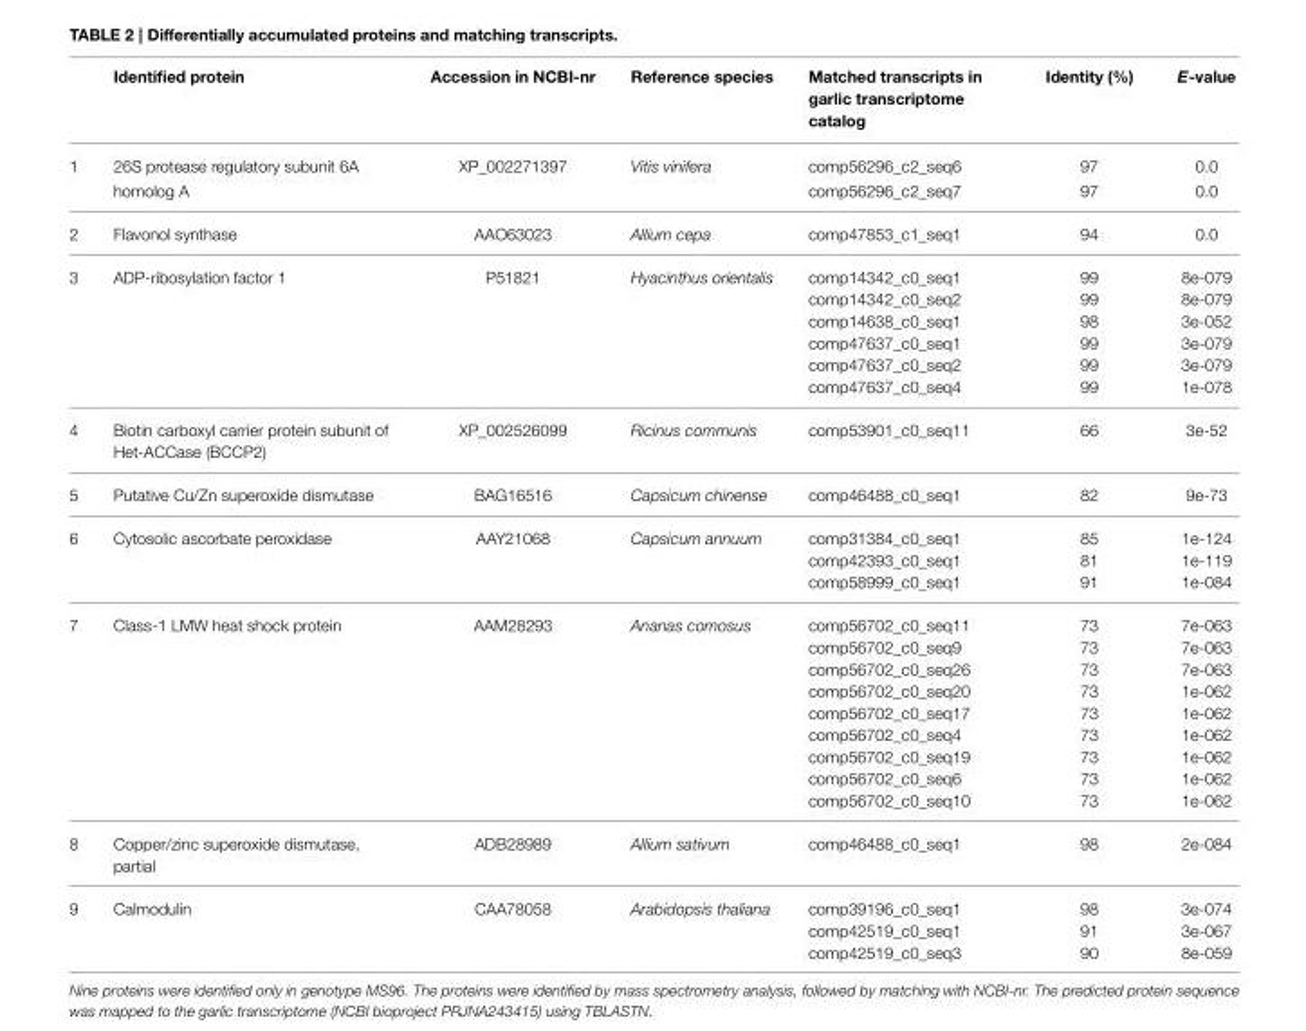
<table><thead><tr><td></td><td>Identified protein</td><td>Accession in NCBI-nr</td><td>Reference species</td><td>Matched transcripts in garlic transcriptome catalog</td><td>Identity (%)</td><td>E-value</td></tr></thead><tbody><tr><td rowspan="2">1</td><td>26S protease regulatory subunit 6A</td><td>XP_002271397</td><td>Vitis vinifera</td><td>comp56296_c2_seq6</td><td>97</td><td>0.0</td></tr><tr><td>homolog A</td><td></td><td></td><td>comp56296_c2_seq7</td><td>97</td><td>0.0</td></tr><tr><td>2</td><td>Flavonol synthase</td><td>AAO63023</td><td>Allium cepa</td><td>comp47853_c1_seq1</td><td>94</td><td>0.0</td></tr><tr><td rowspan="6">3</td><td>ADP-ribosylation factor 1</td><td>P51821</td><td>Hyacinthus orientalis</td><td>comp14342_c0_seq1</td><td>99</td><td>8e-079</td></tr><tr><td></td><td></td><td></td><td>comp14342_c0_seq2</td><td>99</td><td>8e-079</td></tr><tr><td></td><td></td><td></td><td>comp14638_c0_seq1</td><td>98</td><td>3e-052</td></tr><tr><td></td><td></td><td></td><td>comp47637_c0_seq1</td><td>99</td><td>3e-079</td></tr><tr><td></td><td></td><td></td><td>comp47637_c0_seq2</td><td>99</td><td>3e-079</td></tr><tr><td></td><td></td><td></td><td>comp47637_c0_seq4</td><td>99</td><td>1e-078</td></tr><tr><td>4</td><td>Biotin carboxyl carrier protein subunit of Het-ACCase (BCCP2)</td><td>XP_002526099</td><td>Ricinus communis</td><td>comp53901_c0_seq11</td><td>66</td><td>3e-52</td></tr><tr><td>5</td><td>Putative Cu/Zn superoxide dismutase</td><td>BAG16516</td><td>Capsicum chinense</td><td>comp46488_c0_seq1</td><td>82</td><td>9e-73</td></tr><tr><td rowspan="3">6</td><td>Cytosolic ascorbate peroxidase</td><td>AAY21068</td><td>Capsicum annuum</td><td>comp31384_c0_seq1</td><td>85</td><td>1e-124</td></tr><tr><td></td><td></td><td></td><td>comp42393_c0_seq1</td><td>81</td><td>1e-119</td></tr><tr><td></td><td></td><td></td><td>comp58999_c0_seq1</td><td>91</td><td>1e-084</td></tr><tr><td rowspan="9">7</td><td>Class-1 LMW heat shock protein</td><td>AAM28293</td><td>Ananas comosus</td><td>comp56702_c0_seq11</td><td>73</td><td>7e-063</td></tr><tr><td></td><td></td><td></td><td>comp56702_c0_seq9</td><td>73</td><td>7e-063</td></tr><tr><td></td><td></td><td></td><td>comp56702_c0_seq26</td><td>73</td><td>7e-063</td></tr><tr><td></td><td></td><td></td><td>comp56702_c0_seq20</td><td>73</td><td>1e-062</td></tr><tr><td></td><td></td><td></td><td>comp56702_c0_seq17</td><td>73</td><td>1e-062</td></tr><tr><td></td><td></td><td></td><td>comp56702_c0_seq4</td><td>73</td><td>1e-062</td></tr><tr><td></td><td></td><td></td><td>comp56702_c0_seq19</td><td>73</td><td>1e-062</td></tr><tr><td></td><td></td><td></td><td>comp56702_c0_seq6</td><td>73</td><td>1e-062</td></tr><tr><td></td><td></td><td></td><td>comp56702_c0_seq10</td><td>73</td><td>1e-062</td></tr><tr><td>8</td><td>Copper/zinc superoxide dismutase, partial</td><td>ADB28989</td><td>Allium sativum</td><td>comp46488_c0_seq1</td><td>98</td><td>2e-084</td></tr><tr><td rowspan="3">9</td><td>Calmodulin</td><td>CAA78058</td><td>Arabidopsis thaliana</td><td>comp39196_c0_seq1</td><td>98</td><td>3e-074</td></tr><tr><td></td><td></td><td></td><td>comp42519_c0_seq1</td><td>91</td><td>3e-067</td></tr><tr><td></td><td></td><td></td><td>comp42519_c0_seq3</td><td>90</td><td>8e-059</td></tr></tbody></table>